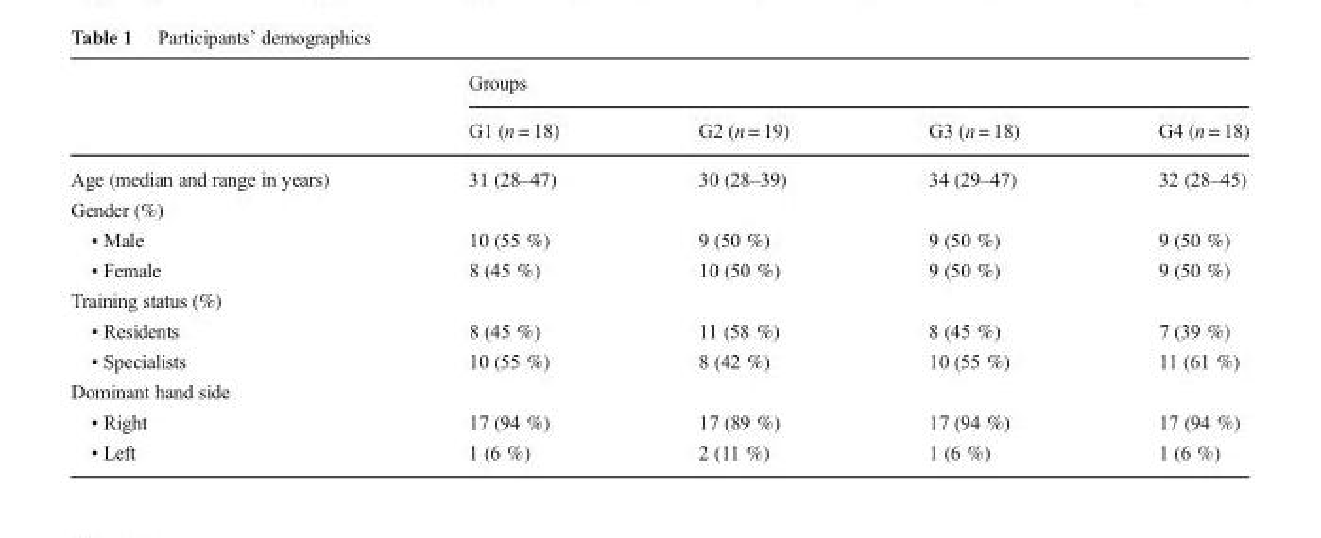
<table><thead><tr><td rowspan="2"></td><td colspan="4">Groups</td></tr><tr><td>G1 (n = 18)</td><td>G2 (n = 19)</td><td>G3 (n = 18)</td><td>G4 (n = 18)</td></tr></thead><tbody><tr><td>Age (median and range in years)</td><td>31 (28–47)</td><td>30 (28–39)</td><td>34 (29–47)</td><td>32 (28–45)</td></tr><tr><td colspan="5">Gender (%)</td></tr><tr><td>▪ Male</td><td>10 (55 %)</td><td>9 (50 %)</td><td>9 (50 %)</td><td>9 (50 %)</td></tr><tr><td>▪ Female</td><td>8 (45 %)</td><td>10 (50 %)</td><td>9 (50 %)</td><td>9 (50 %)</td></tr><tr><td colspan="5">Training status (%)</td></tr><tr><td>▪ Residents</td><td>8 (45 %)</td><td>11 (58 %)</td><td>8 (45 %)</td><td>7 (39 %)</td></tr><tr><td>▪ Specialists</td><td>10 (55 %)</td><td>8 (42 %)</td><td>10 (55 %)</td><td>11 (61 %)</td></tr><tr><td colspan="5">Dominant hand side</td></tr><tr><td>▪ Right</td><td>17 (94 %)</td><td>17 (89 %)</td><td>17 (94 %)</td><td>17 (94 %)</td></tr><tr><td>▪ Left</td><td>1 (6 %)</td><td>2 (11 %)</td><td>1 (6 %)</td><td>1 (6 %)</td></tr></tbody></table>